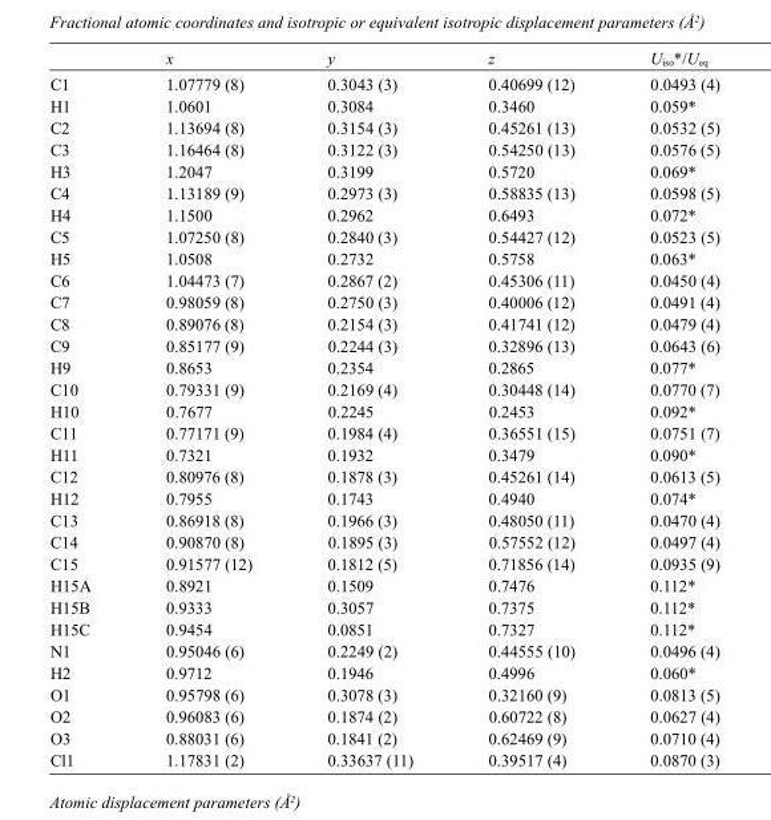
<table><thead><tr><td></td><td>x</td><td>y</td><td>z</td><td>U<sub>iso</sub>*/U<sub>eq</sub></td></tr></thead><tbody><tr><td>C1</td><td>1.07779 (8)</td><td>0.3043 (3)</td><td>0.40699 (12)</td><td>0.0493 (4)</td></tr><tr><td>H1</td><td>1.0601</td><td>0.3084</td><td>0.3460</td><td>0.059*</td></tr><tr><td>C2</td><td>1.13694 (8)</td><td>0.3154 (3)</td><td>0.45261 (13)</td><td>0.0532 (5)</td></tr><tr><td>C3</td><td>1.16464 (8)</td><td>0.3122 (3)</td><td>0.54250 (13)</td><td>0.0576 (5)</td></tr><tr><td>H3</td><td>1.2047</td><td>0.3199</td><td>0.5720</td><td>0.069*</td></tr><tr><td>C4</td><td>1.13189 (9)</td><td>0.2973 (3)</td><td>0.58835 (13)</td><td>0.0598 (5)</td></tr><tr><td>H4</td><td>1.1500</td><td>0.2962</td><td>0.6493</td><td>0.072*</td></tr><tr><td>C5</td><td>1.07250 (8)</td><td>0.2840 (3)</td><td>0.54427 (12)</td><td>0.0523 (5)</td></tr><tr><td>H5</td><td>1.0508</td><td>0.2732</td><td>0.5758</td><td>0.063*</td></tr><tr><td>C6</td><td>1.04473 (7)</td><td>0.2867 (2)</td><td>0.45306 (11)</td><td>0.0450 (4)</td></tr><tr><td>C7</td><td>0.98059 (8)</td><td>0.2750 (3)</td><td>0.40006 (12)</td><td>0.0491 (4)</td></tr><tr><td>C8</td><td>0.89076 (8)</td><td>0.2154 (3)</td><td>0.41741 (12)</td><td>0.0479 (4)</td></tr><tr><td>C9</td><td>0.85177 (9)</td><td>0.2244 (3)</td><td>0.32896 (13)</td><td>0.0643 (6)</td></tr><tr><td>H9</td><td>0.8653</td><td>0.2354</td><td>0.2865</td><td>0.077*</td></tr><tr><td>C10</td><td>0.79331 (9)</td><td>0.2169 (4)</td><td>0.30448 (14)</td><td>0.0770 (7)</td></tr><tr><td>H10</td><td>0.7677</td><td>0.2245</td><td>0.2453</td><td>0.092*</td></tr><tr><td>C11</td><td>0.77171 (9)</td><td>0.1984 (4)</td><td>0.36551 (15)</td><td>0.0751 (7)</td></tr><tr><td>H11</td><td>0.7321</td><td>0.1932</td><td>0.3479</td><td>0.090*</td></tr><tr><td>C12</td><td>0.80976 (8)</td><td>0.1878 (3)</td><td>0.45261 (14)</td><td>0.0613 (5)</td></tr><tr><td>H12</td><td>0.7955</td><td>0.1743</td><td>0.4940</td><td>0.074*</td></tr><tr><td>C13</td><td>0.86918 (8)</td><td>0.1966 (3)</td><td>0.48050 (11)</td><td>0.0470 (4)</td></tr><tr><td>C14</td><td>0.90870 (8)</td><td>0.1895 (3)</td><td>0.57552 (12)</td><td>0.0497 (4)</td></tr><tr><td>C15</td><td>0.91577 (12)</td><td>0.1812 (5)</td><td>0.71856 (14)</td><td>0.0935 (9)</td></tr><tr><td>H15A</td><td>0.8921</td><td>0.1509</td><td>0.7476</td><td>0.112*</td></tr><tr><td>H15B</td><td>0.9333</td><td>0.3057</td><td>0.7375</td><td>0.112*</td></tr><tr><td>H15C</td><td>0.9454</td><td>0.0851</td><td>0.7327</td><td>0.112*</td></tr><tr><td>N1</td><td>0.95046 (6)</td><td>0.2249 (2)</td><td>0.44555 (10)</td><td>0.0496 (4)</td></tr><tr><td>H2</td><td>0.9712</td><td>0.1946</td><td>0.4996</td><td>0.060*</td></tr><tr><td>O1</td><td>0.95798 (6)</td><td>0.3078 (3)</td><td>0.32160 (9)</td><td>0.0813 (5)</td></tr><tr><td>O2</td><td>0.96083 (6)</td><td>0.1874 (2)</td><td>0.60722 (8)</td><td>0.0627 (4)</td></tr><tr><td>O3</td><td>0.88031 (6)</td><td>0.1841 (2)</td><td>0.62469 (9)</td><td>0.0710 (4)</td></tr><tr><td>Cl1</td><td>1.17831 (2)</td><td>0.33637 (11)</td><td>0.39517 (4)</td><td>0.0870 (3)</td></tr></tbody></table>